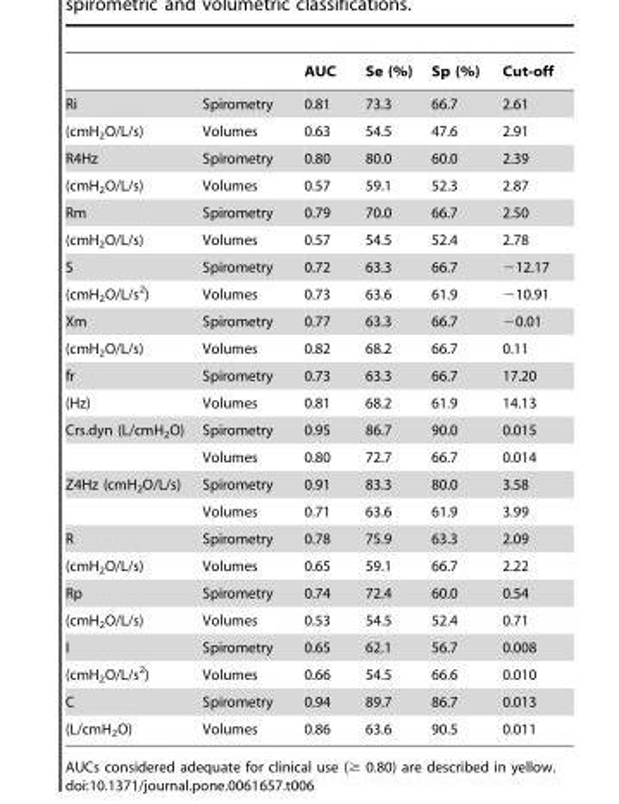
<table><thead><tr><td></td><td></td><td>AUC</td><td>Se (%)</td><td>Sp (%)</td><td>Cut-off</td></tr></thead><tbody><tr><td>Ri</td><td>Spirometry</td><td>0.81</td><td>73.3</td><td>66.7</td><td>2.61</td></tr><tr><td>(cmH<sub>2</sub>O/L/s)</td><td>Volumes</td><td>0.63</td><td>54.5</td><td>47.6</td><td>2.91</td></tr><tr><td>R4Hz</td><td>Spirometry</td><td>0.80</td><td>80.0</td><td>60.0</td><td>2.39</td></tr><tr><td>(cmH<sub>2</sub>O/L/s)</td><td>Volumes</td><td>0.57</td><td>59.1</td><td>52.3</td><td>2.87</td></tr><tr><td>Rm</td><td>Spirometry</td><td>0.79</td><td>70.0</td><td>66.7</td><td>2.50</td></tr><tr><td>(cmH<sub>2</sub>O/L/s)</td><td>Volumes</td><td>0.57</td><td>54.5</td><td>52.4</td><td>2.78</td></tr><tr><td>S</td><td>Spirometry</td><td>0.72</td><td>63.3</td><td>66.7</td><td>−12.17</td></tr><tr><td>(cmH<sub>2</sub>O/L/s<sup>2</sup>)</td><td>Volumes</td><td>0.73</td><td>63.6</td><td>61.9</td><td>−10.91</td></tr><tr><td>Xm</td><td>Spirometry</td><td>0.77</td><td>63.3</td><td>66.7</td><td>−0.01</td></tr><tr><td>(cmH<sub>2</sub>O/L/s)</td><td>Volumes</td><td>0.82</td><td>68.2</td><td>66.7</td><td>0.11</td></tr><tr><td>fr</td><td>Spirometry</td><td>0.73</td><td>63.3</td><td>66.7</td><td>17.20</td></tr><tr><td>(Hz)</td><td>Volumes</td><td>0.81</td><td>68.2</td><td>61.9</td><td>14.13</td></tr><tr><td rowspan="2">Crs.dyn (L/cmH<sub>2</sub>O)</td><td>Spirometry</td><td>0.95</td><td>86.7</td><td>90.0</td><td>0.015</td></tr><tr><td>Volumes</td><td>0.80</td><td>72.7</td><td>66.7</td><td>0.014</td></tr><tr><td rowspan="2">Z4Hz (cmH<sub>2</sub>O/L/s)</td><td>Spirometry</td><td>0.91</td><td>83.3</td><td>80.0</td><td>3.58</td></tr><tr><td>Volumes</td><td>0.71</td><td>63.6</td><td>61.9</td><td>3.99</td></tr><tr><td>R</td><td>Spirometry</td><td>0.78</td><td>75.9</td><td>63.3</td><td>2.09</td></tr><tr><td>(cmH<sub>2</sub>O/L/s)</td><td>Volumes</td><td>0.65</td><td>59.1</td><td>66.7</td><td>2.22</td></tr><tr><td>Rp</td><td>Spirometry</td><td>0.74</td><td>72.4</td><td>60.0</td><td>0.54</td></tr><tr><td>(cmH<sub>2</sub>O/L/s)</td><td>Volumes</td><td>0.53</td><td>54.5</td><td>52.4</td><td>0.71</td></tr><tr><td>I</td><td>Spirometry</td><td>0.65</td><td>62.1</td><td>56.7</td><td>0.008</td></tr><tr><td>(cmH<sub>2</sub>O/L/s<sup>2</sup>)</td><td>Volumes</td><td>0.66</td><td>54.5</td><td>66.6</td><td>0.010</td></tr><tr><td>C</td><td>Spirometry</td><td>0.94</td><td>89.7</td><td>86.7</td><td>0.013</td></tr><tr><td>(L/cmH<sub>2</sub>O)</td><td>Volumes</td><td>0.86</td><td>63.6</td><td>90.5</td><td>0.011</td></tr></tbody></table>